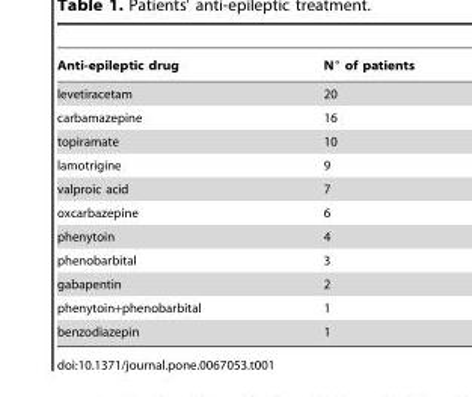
<table><thead><tr><td>Anti-epileptic drug</td><td>N° of patients</td></tr></thead><tbody><tr><td>levetiracetam</td><td>20</td></tr><tr><td>carbamazepine</td><td>16</td></tr><tr><td>topiramate</td><td>10</td></tr><tr><td>lamotrigine</td><td>9</td></tr><tr><td>valproic acid</td><td>7</td></tr><tr><td>oxcarbazepine</td><td>6</td></tr><tr><td>phenytoin</td><td>4</td></tr><tr><td>phenobarbital</td><td>3</td></tr><tr><td>gabapentin</td><td>2</td></tr><tr><td>phenytoin+phenobarbital</td><td>1</td></tr><tr><td>benzodiazepin</td><td>1</td></tr></tbody></table>